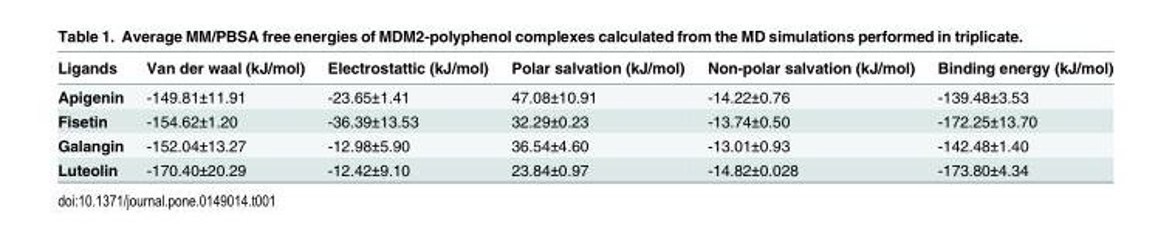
<table><thead><tr><td>Ligands</td><td>Van der waal (kJ/mol)</td><td>Electrostattic (kJ/mol)</td><td>Polar salvation (kJ/mol)</td><td>Non-polar salvation (kJ/mol)</td><td>Binding energy (kJ/mol)</td></tr></thead><tbody><tr><td>Apigenin</td><td>-149.81±11.91</td><td>-23.65±1.41</td><td>47.08±10.91</td><td>-14.22±0.76</td><td>-139.48±3.53</td></tr><tr><td>Fisetin</td><td>-154.62±1.20</td><td>-36.39±13.53</td><td>32.29±0.23</td><td>-13.74±0.50</td><td>-172.25±13.70</td></tr><tr><td>Galangin</td><td>-152.04±13.27</td><td>-12.98±5.90</td><td>36.54±4.60</td><td>-13.01±0.93</td><td>-142.48±1.40</td></tr><tr><td>Luteolin</td><td>-170.40±20.29</td><td>-12.42±9.10</td><td>23.84±0.97</td><td>-14.82±0.028</td><td>-173.80±4.34</td></tr></tbody></table>